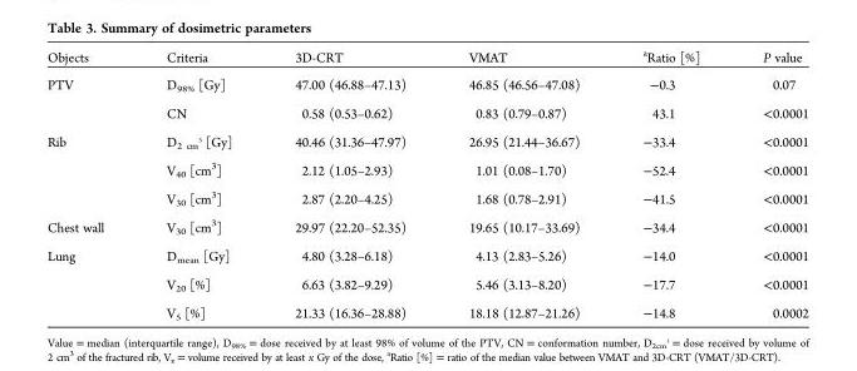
<table><thead><tr><td>Objects</td><td>Criteria</td><td>3D-CRT</td><td>VMAT</td><td><sup>a</sup>Ratio [%]</td><td>P value</td></tr></thead><tbody><tr><td rowspan="2">PTV</td><td>D<sub>98%</sub> [Gy]</td><td>47.00 (46.88–47.13)</td><td>46.85 (46.56–47.08)</td><td>−0.3</td><td>0.07</td></tr><tr><td>CN</td><td>0.58 (0.53–0.62)</td><td>0.83 (0.79–0.87)</td><td>43.1</td><td>&lt;0.0001</td></tr><tr><td rowspan="3">Rib</td><td>D<sub>2 cm </sub><sup><sub>3</sub></sup> [Gy]</td><td>40.46 (31.36–47.97)</td><td>26.95 (21.44–36.67)</td><td>−33.4</td><td>&lt;0.0001</td></tr><tr><td>V<sub>40</sub> [cm<sup>3</sup>]</td><td>2.12 (1.05–2.93)</td><td>1.01 (0.08–1.70)</td><td>−52.4</td><td>&lt;0.0001</td></tr><tr><td>V<sub>30</sub> [cm<sup>3</sup>]</td><td>2.87 (2.20–4.25)</td><td>1.68 (0.78–2.91)</td><td>−41.5</td><td>&lt;0.0001</td></tr><tr><td>Chest wall</td><td>V<sub>30</sub> [cm<sup>3</sup>]</td><td>29.97 (22.20–52.35)</td><td>19.65 (10.17–33.69)</td><td>−34.4</td><td>&lt;0.0001</td></tr><tr><td rowspan="3">Lung</td><td>D<sub>mean</sub> [Gy]</td><td>4.80 (3.28–6.18)</td><td>4.13 (2.83–5.26)</td><td>−14.0</td><td>&lt;0.0001</td></tr><tr><td>V<sub>20</sub> [%]</td><td>6.63 (3.82–9.29)</td><td>5.46 (3.13–8.20)</td><td>−17.7</td><td>&lt;0.0001</td></tr><tr><td>V<sub>5</sub> [%]</td><td>21.33 (16.36–28.88)</td><td>18.18 (12.87–21.26)</td><td>−14.8</td><td>0.0002</td></tr></tbody></table>